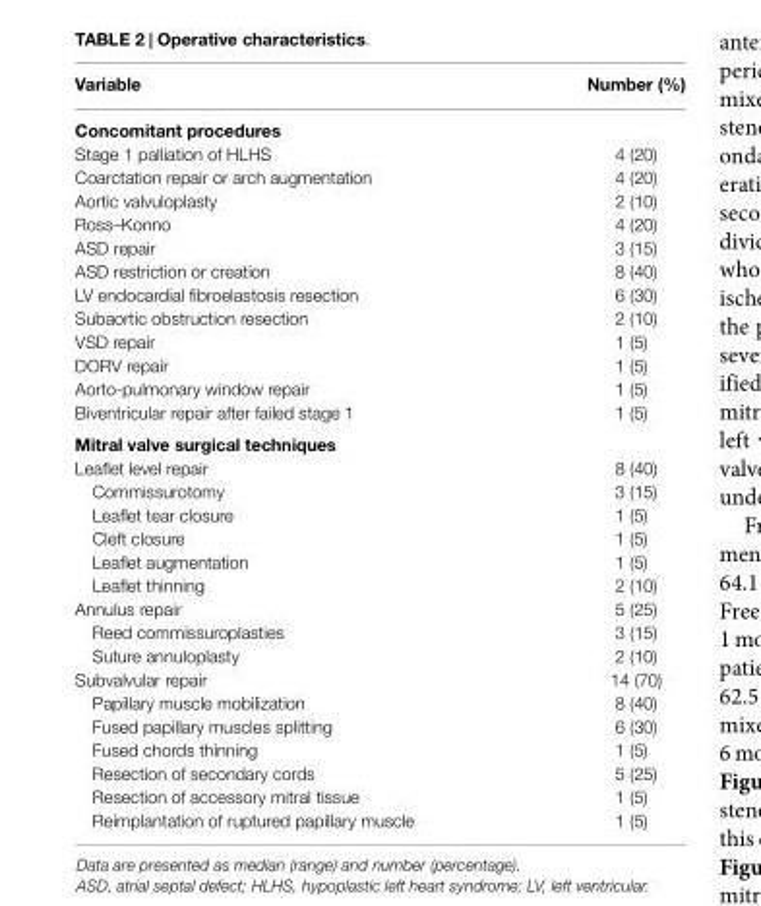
<table><thead><tr><td>Variable</td><td>Number (%)</td></tr></thead><tbody><tr><td colspan="2">Concomitant procedures</td></tr><tr><td>Stage 1 palliation of HLHS</td><td>4 (20)</td></tr><tr><td>Coarctation repair or arch augmentation</td><td>4 (20)</td></tr><tr><td>Aortic valvuloplasty</td><td>2 (10)</td></tr><tr><td>Ross–Konno</td><td>4 (20)</td></tr><tr><td>ASD repair</td><td>3 (15)</td></tr><tr><td>ASD restriction or creation</td><td>8 (40)</td></tr><tr><td>LV endocardial fibroelastosis resection</td><td>6 (30)</td></tr><tr><td>Subaortic obstruction resection</td><td>2 (10)</td></tr><tr><td>VSD repair</td><td>1 (5)</td></tr><tr><td>DORV repair</td><td>1 (5)</td></tr><tr><td>Aorto-pulmonary window repair</td><td>1 (5)</td></tr><tr><td>Biventricular repair after failed stage 1</td><td>1 (5)</td></tr><tr><td colspan="2">Mitral valve surgical techniques</td></tr><tr><td>Leaflet level repair</td><td>8 (40)</td></tr><tr><td>Commissurotomy</td><td>3 (15)</td></tr><tr><td>Leaflet tear closure</td><td>1 (5)</td></tr><tr><td>Cleft closure</td><td>1 (5)</td></tr><tr><td>Leaflet augmentation</td><td>1 (5)</td></tr><tr><td>Leaflet thinning</td><td>2 (10)</td></tr><tr><td>Annulus repair</td><td>5 (25)</td></tr><tr><td>Reed commissuroplasties</td><td>3 (15)</td></tr><tr><td>Suture annuloplasty</td><td>2 (10)</td></tr><tr><td>Subvalvular repair</td><td>14 (70)</td></tr><tr><td>Papillary muscle mobilization</td><td>8 (40)</td></tr><tr><td>Fused papillary muscles splitting</td><td>6 (30)</td></tr><tr><td>Fused chords thinning</td><td>1 (5)</td></tr><tr><td>Resection of secondary cords</td><td>5 (25)</td></tr><tr><td>Resection of accessory mitral tissue</td><td>1 (5)</td></tr><tr><td>Reimplantation of ruptured papillary muscle</td><td>1 (5)</td></tr></tbody></table>